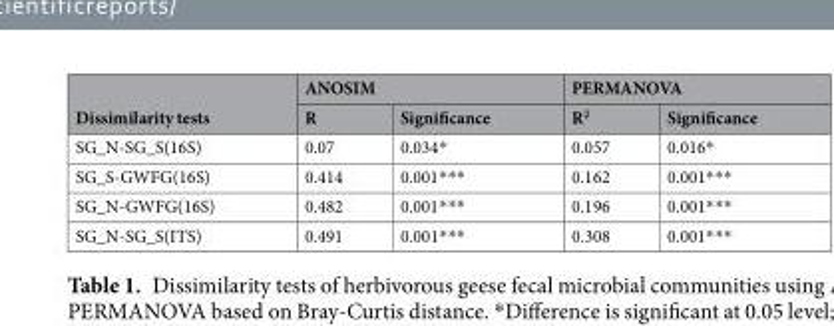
<table><thead><tr><td rowspan="2">Dissimilarity tests</td><td colspan="2">ANOSIM</td><td colspan="2">PERMANOVA</td></tr><tr><td>R</td><td>Significance</td><td>R<sup>2</sup></td><td>Significance</td></tr></thead><tbody><tr><td>SG_N-SG_S(16S)</td><td>0.07</td><td>0.034*</td><td>0.057</td><td>0.016*</td></tr><tr><td>SG_S-GWFG(16S)</td><td>0.414</td><td>0.001***</td><td>0.162</td><td>0.001***</td></tr><tr><td>SG_N-GWFG(16S)</td><td>0.482</td><td>0.001***</td><td>0.196</td><td>0.001***</td></tr><tr><td>SG_N-SG_S(ITS)</td><td>0.491</td><td>0.001***</td><td>0.308</td><td>0.001***</td></tr></tbody></table>